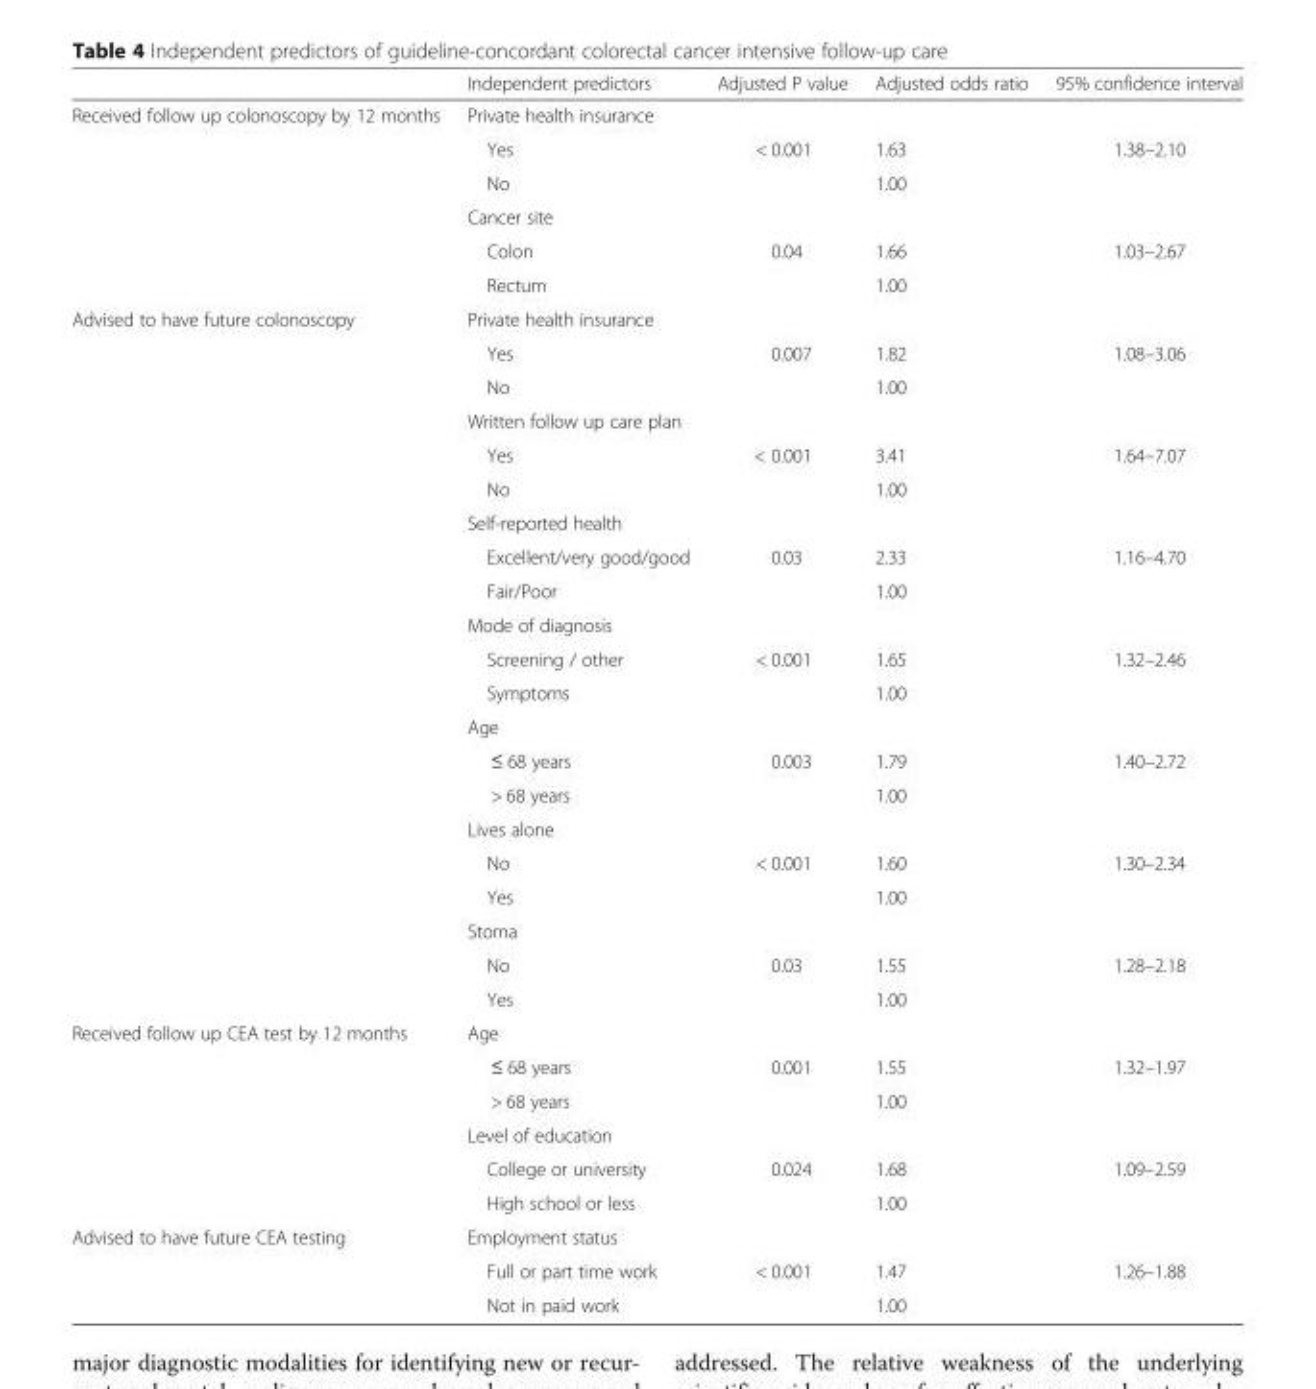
<table><thead><tr><td></td><td>Independent predictors</td><td>Adjusted P value</td><td>Adjusted odds ratio</td><td>95% confidence interval</td></tr></thead><tbody><tr><td rowspan="6">Received follow up colonoscopy by 12 months</td><td colspan="4">Private health insurance</td></tr><tr><td>Yes</td><td>&lt; 0.001</td><td>1.63</td><td>1.38–2.10</td></tr><tr><td>No</td><td></td><td>1.00</td><td></td></tr><tr><td colspan="4">Cancer site</td></tr><tr><td>Colon</td><td>0.04</td><td>1.66</td><td>1.03–2.67</td></tr><tr><td>Rectum</td><td></td><td>1.00</td><td></td></tr><tr><td rowspan="21">Advised to have future colonoscopy</td><td colspan="4">Private health insurance</td></tr><tr><td>Yes</td><td>0.007</td><td>1.82</td><td>1.08–3.06</td></tr><tr><td>No</td><td></td><td>1.00</td><td></td></tr><tr><td colspan="4">Written follow up care plan</td></tr><tr><td>Yes</td><td>&lt; 0.001</td><td>3.41</td><td>1.64–7.07</td></tr><tr><td>No</td><td></td><td>1.00</td><td></td></tr><tr><td colspan="4">Self-reported health</td></tr><tr><td>Excellent/very good/good</td><td>0.03</td><td>2.33</td><td>1.16–4.70</td></tr><tr><td>Fair/Poor</td><td></td><td>1.00</td><td></td></tr><tr><td colspan="4">Mode of diagnosis</td></tr><tr><td>Screening / other</td><td>&lt; 0.001</td><td>1.65</td><td>1.32–2.46</td></tr><tr><td>Symptoms</td><td></td><td>1.00</td><td></td></tr><tr><td colspan="4">Age</td></tr><tr><td>≤ 68 years</td><td>0.003</td><td>1.79</td><td>1.40–2.72</td></tr><tr><td>&gt; 68 years</td><td></td><td>1.00</td><td></td></tr><tr><td colspan="4">Lives alone</td></tr><tr><td>No</td><td>&lt; 0.001</td><td>1.60</td><td>1.30–2.34</td></tr><tr><td>Yes</td><td></td><td>1.00</td><td></td></tr><tr><td colspan="4">Stoma</td></tr><tr><td>No</td><td>0.03</td><td>1.55</td><td>1.28–2.18</td></tr><tr><td>Yes</td><td></td><td>1.00</td><td></td></tr><tr><td rowspan="6">Received follow up CEA test by 12 months</td><td colspan="4">Age</td></tr><tr><td>≤ 68 years</td><td>0.001</td><td>1.55</td><td>1.32–1.97</td></tr><tr><td>&gt; 68 years</td><td></td><td>1.00</td><td></td></tr><tr><td colspan="4">Level of education</td></tr><tr><td>College or university</td><td>0.024</td><td>1.68</td><td>1.09–2.59</td></tr><tr><td>High school or less</td><td></td><td>1.00</td><td></td></tr><tr><td rowspan="3">Advised to have future CEA testing</td><td colspan="4">Employment status</td></tr><tr><td>Full or part time work</td><td>&lt; 0.001</td><td>1.47</td><td>1.26–1.88</td></tr><tr><td>Not in paid work</td><td></td><td>1.00</td><td></td></tr></tbody></table>